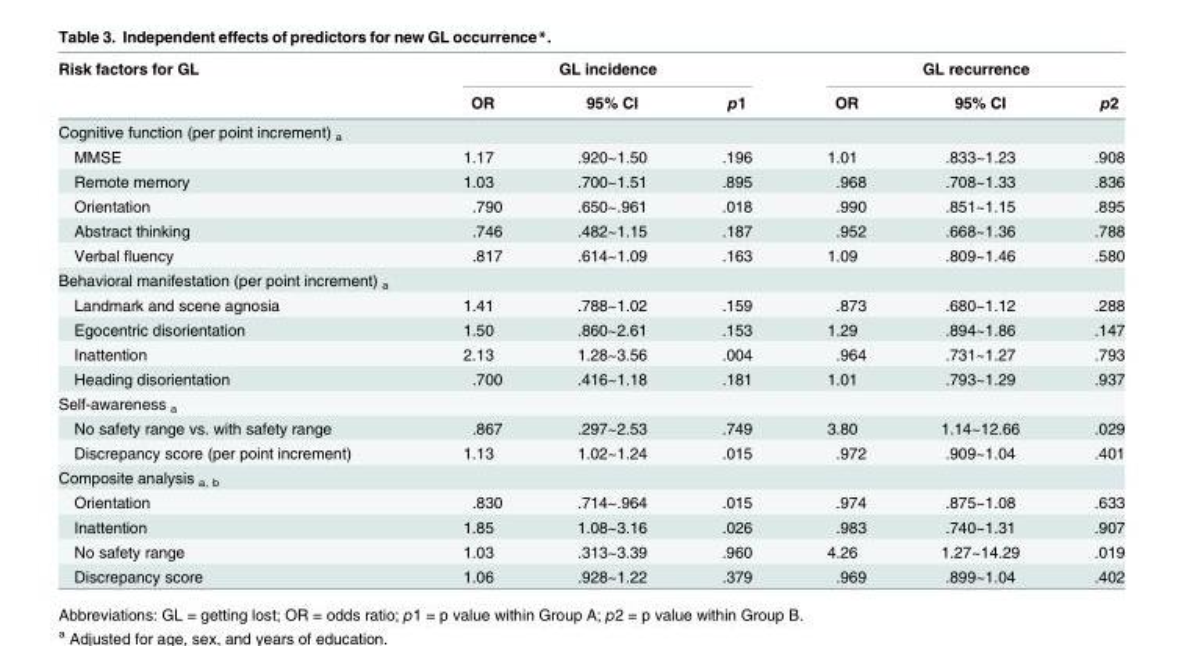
<table><thead><tr><td rowspan="2">Risk factors for GL</td><td colspan="3">GL incidence</td><td colspan="3">GL recurrence</td></tr><tr><td>OR</td><td>95% CI</td><td>p1</td><td>OR</td><td>95% CI</td><td>p2</td></tr></thead><tbody><tr><td colspan="7">Cognitive function (per point increment) <sub>a</sub></td></tr><tr><td>MMSE</td><td>1.17</td><td>.920~1.50</td><td>.196</td><td>1.01</td><td>.833~1.23</td><td>.908</td></tr><tr><td>Remote memory</td><td>1.03</td><td>.700~1.51</td><td>.895</td><td>.968</td><td>.708~1.33</td><td>.836</td></tr><tr><td>Orientation</td><td>.790</td><td>.650~.961</td><td>.018</td><td>.990</td><td>.851~1.15</td><td>.895</td></tr><tr><td>Abstract thinking</td><td>.746</td><td>.482~1.15</td><td>.187</td><td>.952</td><td>.668~1.36</td><td>.788</td></tr><tr><td>Verbal fluency</td><td>.817</td><td>.614~1.09</td><td>.163</td><td>1.09</td><td>.809~1.46</td><td>.580</td></tr><tr><td colspan="7">Behavioral manifestation (per point increment) <sub>a</sub></td></tr><tr><td>Landmark and scene agnosia</td><td>1.41</td><td>.788~1.02</td><td>.159</td><td>.873</td><td>.680~1.12</td><td>.288</td></tr><tr><td>Egocentric disorientation</td><td>1.50</td><td>.860~2.61</td><td>.153</td><td>1.29</td><td>.894~1.86</td><td>.147</td></tr><tr><td>Inattention</td><td>2.13</td><td>1.28~3.56</td><td>.004</td><td>.964</td><td>.731~1.27</td><td>.793</td></tr><tr><td>Heading disorientation</td><td>.700</td><td>.416~1.18</td><td>.181</td><td>1.01</td><td>.793~1.29</td><td>.937</td></tr><tr><td colspan="7">Self-awareness <sub>a</sub></td></tr><tr><td>No safety range vs. with safety range</td><td>.867</td><td>.297~2.53</td><td>.749</td><td>3.80</td><td>1.14~12.66</td><td>.029</td></tr><tr><td>Discrepancy score (per point increment)</td><td>1.13</td><td>1.02~1.24</td><td>.015</td><td>.972</td><td>.909~1.04</td><td>.401</td></tr><tr><td colspan="7">Composite analysis <sub>a, b</sub></td></tr><tr><td>Orientation</td><td>.830</td><td>.714~.964</td><td>.015</td><td>.974</td><td>.875~1.08</td><td>.633</td></tr><tr><td>Inattention</td><td>1.85</td><td>1.08~3.16</td><td>.026</td><td>.983</td><td>.740~1.31</td><td>.907</td></tr><tr><td>No safety range</td><td>1.03</td><td>.313~3.39</td><td>.960</td><td>4.26</td><td>1.27~14.29</td><td>.019</td></tr><tr><td>Discrepancy score</td><td>1.06</td><td>.928~1.22</td><td>.379</td><td>.969</td><td>.899~1.04</td><td>.402</td></tr></tbody></table>